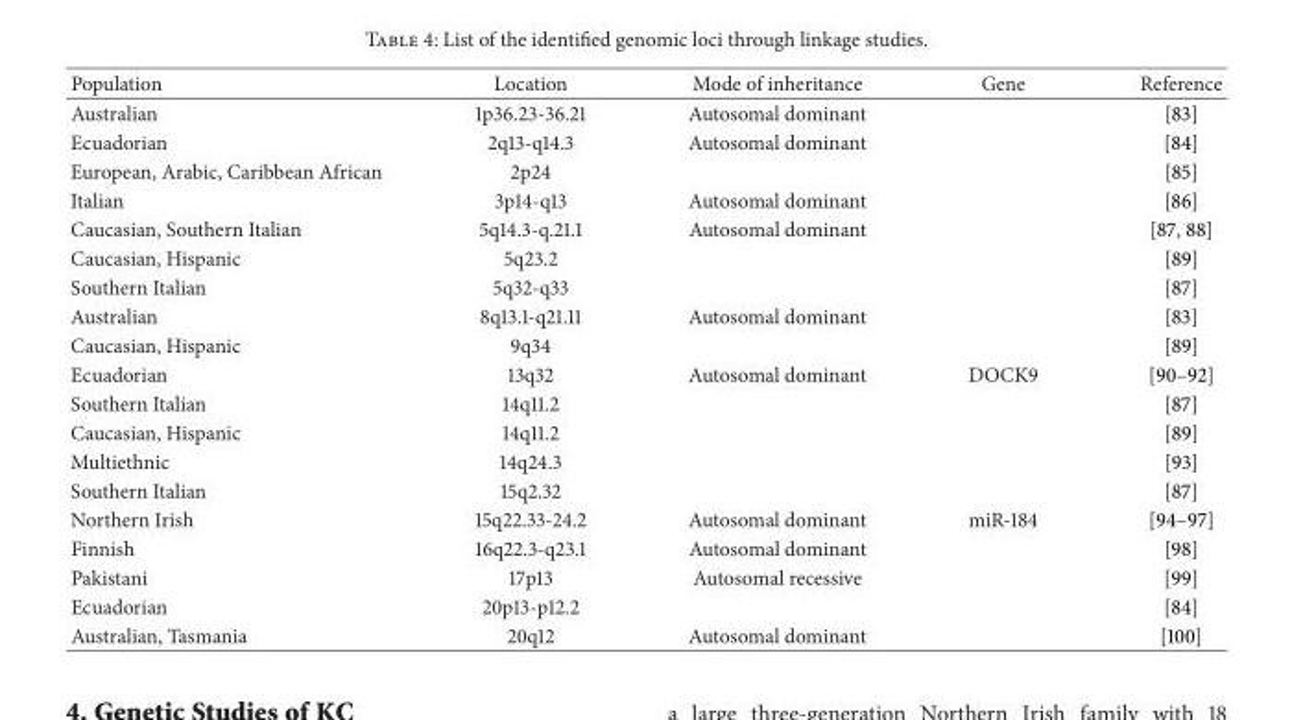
<table><thead><tr><td>Population</td><td>Location</td><td>Mode of inheritance</td><td>Gene</td><td>Reference</td></tr></thead><tbody><tr><td>Australian</td><td>1p36.23-36.21</td><td>Autosomal dominant</td><td></td><td>[83]</td></tr><tr><td>Ecuadorian</td><td>2q13-q14.3</td><td>Autosomal dominant</td><td></td><td>[84]</td></tr><tr><td>European, Arabic, Caribbean African</td><td>2p24</td><td></td><td></td><td>[85]</td></tr><tr><td>Italian</td><td>3p14-q13</td><td>Autosomal dominant</td><td></td><td>[86]</td></tr><tr><td>Caucasian, Southern Italian</td><td>5q14.3-q.21.1</td><td>Autosomal dominant</td><td></td><td>[87, 88]</td></tr><tr><td>Caucasian, Hispanic</td><td>5q23.2</td><td></td><td></td><td>[89]</td></tr><tr><td>Southern Italian</td><td>5q32-q33</td><td></td><td></td><td>[87]</td></tr><tr><td>Australian</td><td>8q13.1-q21.11</td><td>Autosomal dominant</td><td></td><td>[83]</td></tr><tr><td>Caucasian, Hispanic</td><td>9q34</td><td></td><td></td><td>[89]</td></tr><tr><td>Ecuadorian</td><td>13q32</td><td>Autosomal dominant</td><td>DOCK9</td><td>[90–92]</td></tr><tr><td>Southern Italian</td><td>14q11.2</td><td></td><td></td><td>[87]</td></tr><tr><td>Caucasian, Hispanic</td><td>14q11.2</td><td></td><td></td><td>[89]</td></tr><tr><td>Multiethnic</td><td>14q24.3</td><td></td><td></td><td>[93]</td></tr><tr><td>Southern Italian</td><td>15q2.32</td><td></td><td></td><td>[87]</td></tr><tr><td>Northern Irish</td><td>15q22.33-24.2</td><td>Autosomal dominant</td><td>miR-184</td><td>[94–97]</td></tr><tr><td>Finnish</td><td>16q22.3-q23.1</td><td>Autosomal dominant</td><td></td><td>[98]</td></tr><tr><td>Pakistani</td><td>17p13</td><td>Autosomal recessive</td><td></td><td>[99]</td></tr><tr><td>Ecuadorian</td><td>20p13-p12.2</td><td></td><td></td><td>[84]</td></tr><tr><td>Australian, Tasmania</td><td>20q12</td><td>Autosomal dominant</td><td></td><td>[100]</td></tr></tbody></table>